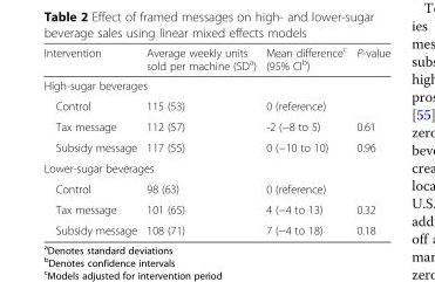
<table><thead><tr><td>Intervention</td><td>Average weekly units sold per machine (SD<sup>a</sup>)</td><td>Mean difference<sup>c</sup> (95% CI<sup>b</sup>)</td><td>P-value</td></tr></thead><tbody><tr><td colspan="4">High-sugar beverages</td></tr><tr><td>Control</td><td>115 (53)</td><td>0 (reference)</td><td></td></tr><tr><td>Tax message</td><td>112 (57)</td><td>-2 (−8 to 5)</td><td>0.61</td></tr><tr><td>Subsidy message</td><td>117 (55)</td><td>0 (−10 to 10)</td><td>0.96</td></tr><tr><td colspan="4">Lower-sugar beverages</td></tr><tr><td>Control</td><td>98 (63)</td><td>0 (reference)</td><td></td></tr><tr><td>Tax message</td><td>101 (65)</td><td>4 (−4 to 13)</td><td>0.32</td></tr><tr><td>Subsidy message</td><td>108 (71)</td><td>7 (−4 to 18)</td><td>0.18</td></tr></tbody></table>